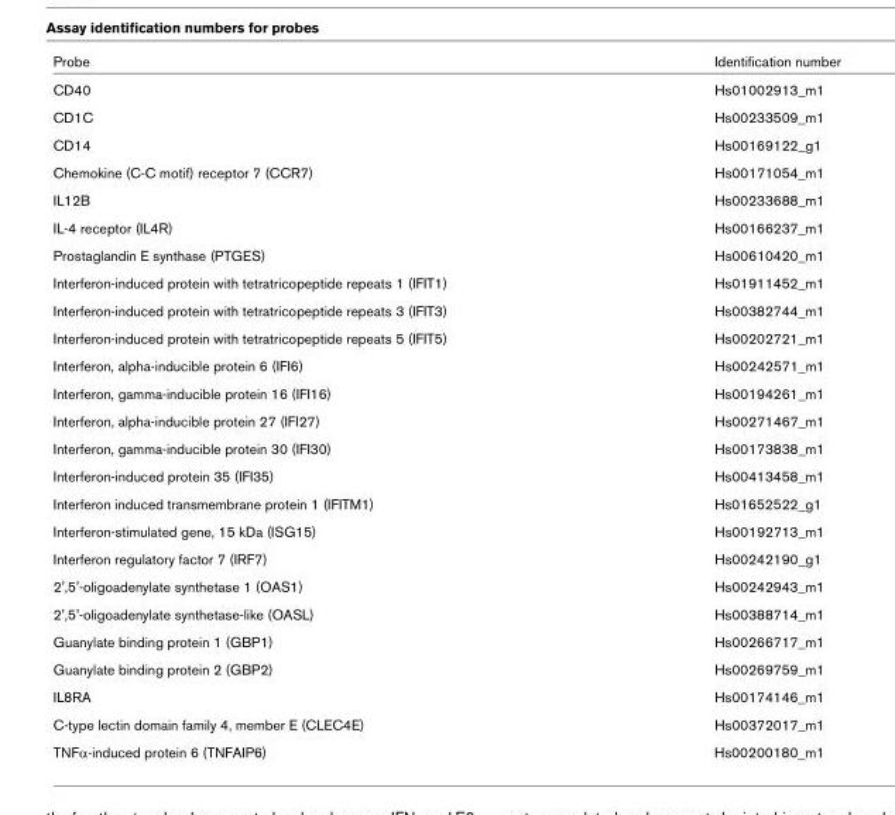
<table><thead><tr><td>Probe</td><td>Identification number</td></tr></thead><tbody><tr><td>CD40</td><td>Hs01002913_m1</td></tr><tr><td>CD1C</td><td>Hs00233509_m1</td></tr><tr><td>CD14</td><td>Hs00169122_g1</td></tr><tr><td>Chemokine (C-C motif) receptor 7 (CCR7)</td><td>Hs00171054_m1</td></tr><tr><td>IL12B</td><td>Hs00233688_m1</td></tr><tr><td>IL-4 receptor (IL4R)</td><td>Hs00166237_m1</td></tr><tr><td>Prostaglandin E synthase (PTGES)</td><td>Hs00610420_m1</td></tr><tr><td>Interferon-induced protein with tetratricopeptide repeats 1 (IFIT1)</td><td>Hs01911452_m1</td></tr><tr><td>Interferon-induced protein with tetratricopeptide repeats 3 (IFIT3)</td><td>Hs00382744_m1</td></tr><tr><td>Interferon-induced protein with tetratricopeptide repeats 5 (IFIT5)</td><td>Hs00202721_m1</td></tr><tr><td>Interferon, alpha-inducible protein 6 (IFI6)</td><td>Hs00242571_m1</td></tr><tr><td>Interferon, gamma-inducible protein 16 (IFI16)</td><td>Hs00194261_m1</td></tr><tr><td>Interferon, alpha-inducible protein 27 (IFI27)</td><td>Hs00271467_m1</td></tr><tr><td>Interferon, gamma-inducible protein 30 (IFI30)</td><td>Hs00173838_m1</td></tr><tr><td>Interferon-induced protein 35 (IFI35)</td><td>Hs00413458_m1</td></tr><tr><td>Interferon induced transmembrane protein 1 (IFITM1)</td><td>Hs01652522_g1</td></tr><tr><td>Interferon-stimulated gene, 15 kDa (ISG15)</td><td>Hs00192713_m1</td></tr><tr><td>Interferon regulatory factor 7 (IRF7)</td><td>Hs00242190_g1</td></tr><tr><td>2&#x27;,5&#x27;-oligoadenylate synthetase 1 (OAS1)</td><td>Hs00242943_m1</td></tr><tr><td>2&#x27;,5&#x27;-oligoadenylate synthetase-like (OASL)</td><td>Hs00388714_m1</td></tr><tr><td>Guanylate binding protein 1 (GBP1)</td><td>Hs00266717_m1</td></tr><tr><td>Guanylate binding protein 2 (GBP2)</td><td>Hs00269759_m1</td></tr><tr><td>IL8RA</td><td>Hs00174146_m1</td></tr><tr><td>C-type lectin domain family 4, member E (CLEC4E)</td><td>Hs00372017_m1</td></tr><tr><td>TNFα-induced protein 6 (TNFAIP6)</td><td>Hs00200180_m1</td></tr></tbody></table>